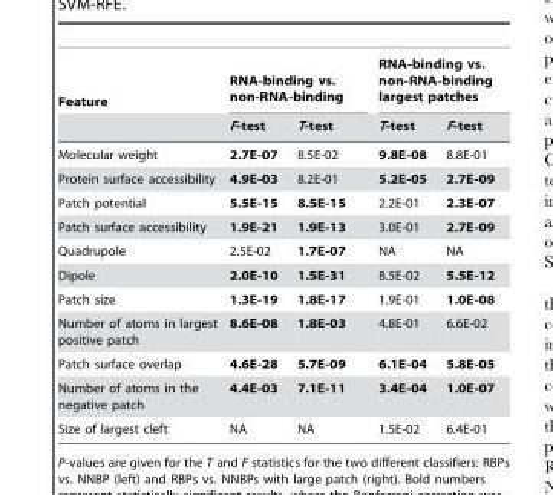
<table><thead><tr><td rowspan="2">Feature</td><td colspan="2">RNA-binding vs. non-RNA-binding</td><td colspan="2">RNA-binding vs. non-RNA-binding largest patches</td></tr><tr><td>F-test</td><td>T-test</td><td>T-test</td><td>F-test</td></tr></thead><tbody><tr><td>Molecular weight</td><td>2.7E-07</td><td>8.5E-02</td><td>9.8E-08</td><td>8.8E-01</td></tr><tr><td>Protein surface accessibility</td><td>4.9E-03</td><td>8.2E-01</td><td>5.2E-05</td><td>2.7E-09</td></tr><tr><td>Patch potential</td><td>5.5E-15</td><td>8.5E-15</td><td>2.2E-01</td><td>2.3E-07</td></tr><tr><td>Patch surface accessibility</td><td>1.9E-21</td><td>1.9E-13</td><td>3.0E-01</td><td>2.7E-09</td></tr><tr><td>Quadrupole</td><td>2.5E-02</td><td>1.7E-07</td><td>NA</td><td>NA</td></tr><tr><td>Dipole</td><td>2.0E-10</td><td>1.5E-31</td><td>8.5E-02</td><td>5.5E-12</td></tr><tr><td>Patch size</td><td>1.3E-19</td><td>1.8E-17</td><td>1.9E-01</td><td>1.0E-08</td></tr><tr><td>Number of atoms in largest positive patch</td><td>8.6E-08</td><td>1.8E-03</td><td>4.8E-01</td><td>6.6E-02</td></tr><tr><td>Patch surface overlap</td><td>4.6E-28</td><td>5.7E-09</td><td>6.1E-04</td><td>5.8E-05</td></tr><tr><td>Number of atoms in the negative patch</td><td>4.4E-03</td><td>7.1E-11</td><td>3.4E-04</td><td>1.0E-07</td></tr><tr><td>Size of largest cleft</td><td>NA</td><td>NA</td><td>1.5E-02</td><td>6.4E-01</td></tr></tbody></table>